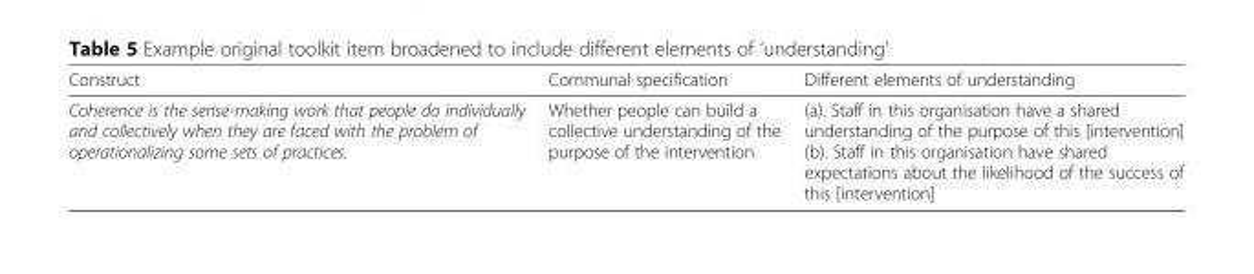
<table><thead><tr><td>Construct</td><td>Communal specification</td><td>Different elements of understanding</td></tr></thead><tbody><tr><td>Coherence is the sense-making work that people do individually and collectively when they are faced with the problem of operationalizing some sets of practices.</td><td>Whether people can build a collective understanding of the purpose of the intervention</td><td>(a). Staff in this organisation have a shared understanding of the purpose of this [intervention] (b). Staff in this organisation have shared expectations about the likelihood of the success of this [intervention]</td></tr></tbody></table>